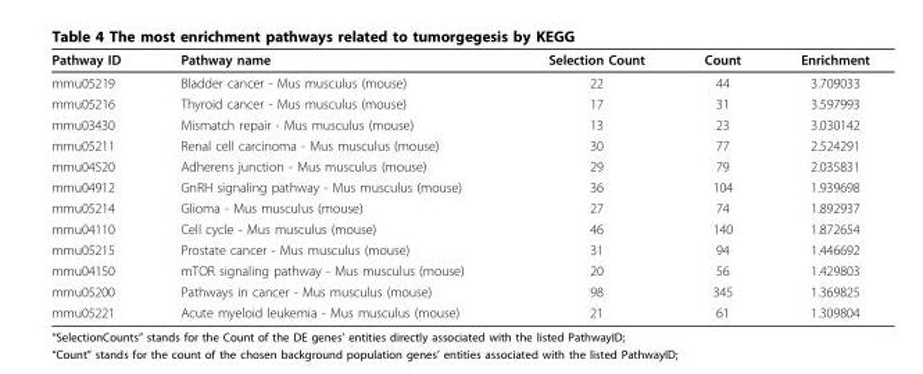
<table><thead><tr><td>Pathway ID</td><td>Pathway name</td><td>Selection Count</td><td>Count</td><td>Enrichment</td></tr></thead><tbody><tr><td>mmu05219</td><td>Bladder cancer - Mus musculus (mouse)</td><td>22</td><td>44</td><td>3.709033</td></tr><tr><td>mmu05216</td><td>Thyroid cancer - Mus musculus (mouse)</td><td>17</td><td>31</td><td>3.597993</td></tr><tr><td>mmu03430</td><td>Mismatch repair - Mus musculus (mouse)</td><td>13</td><td>23</td><td>3.030142</td></tr><tr><td>mmu05211</td><td>Renal cell carcinoma - Mus musculus (mouse)</td><td>30</td><td>77</td><td>2.524291</td></tr><tr><td>mmu04520</td><td>Adherens junction - Mus musculus (mouse)</td><td>29</td><td>79</td><td>2.035831</td></tr><tr><td>mmu04912</td><td>GnRH signaling pathway - Mus musculus (mouse)</td><td>36</td><td>104</td><td>1.939698</td></tr><tr><td>mmu05214</td><td>Glioma - Mus musculus (mouse)</td><td>27</td><td>74</td><td>1.892937</td></tr><tr><td>mmu04110</td><td>Cell cycle - Mus musculus (mouse)</td><td>46</td><td>140</td><td>1.872654</td></tr><tr><td>mmu05215</td><td>Prostate cancer - Mus musculus (mouse)</td><td>31</td><td>94</td><td>1.446692</td></tr><tr><td>mmu04150</td><td>mTOR signaling pathway - Mus musculus (mouse)</td><td>20</td><td>56</td><td>1.429803</td></tr><tr><td>mmu05200</td><td>Pathways in cancer - Mus musculus (mouse)</td><td>98</td><td>345</td><td>1.369825</td></tr><tr><td>mmu05221</td><td>Acute myeloid leukemia - Mus musculus (mouse)</td><td>21</td><td>61</td><td>1.309804</td></tr></tbody></table>